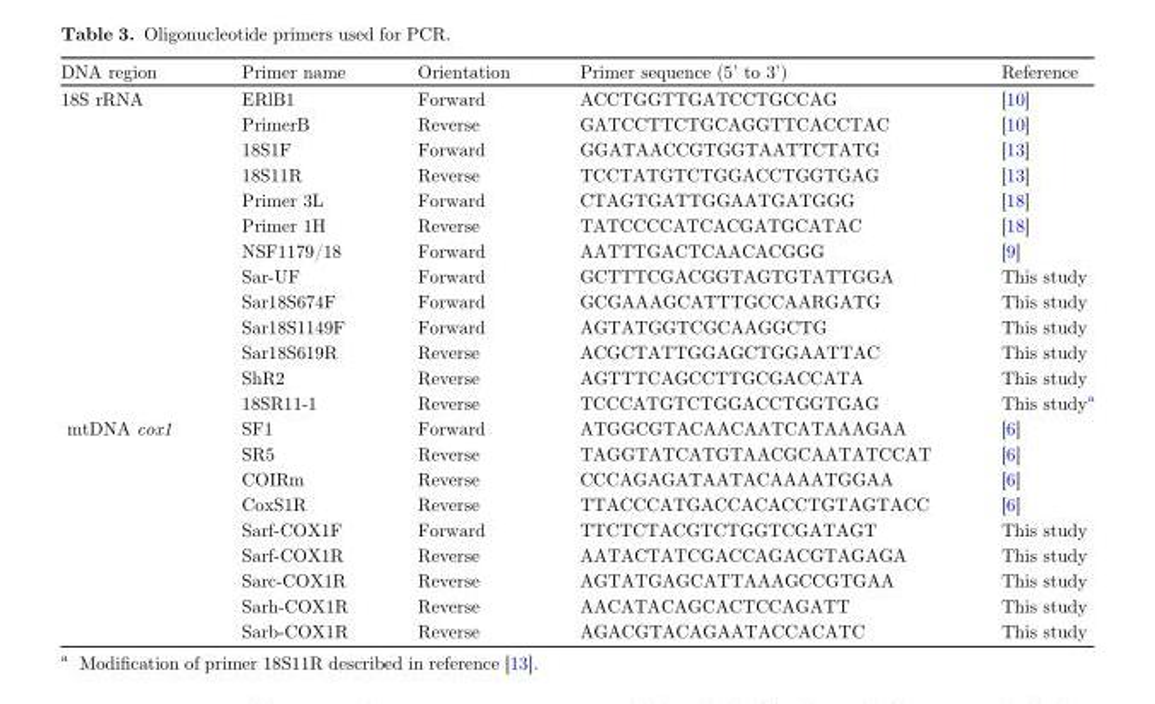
<table><thead><tr><td>DNA region</td><td>Primer name</td><td>Orientation</td><td>Primer sequence (5’ to 3’)</td><td>Reference</td></tr></thead><tbody><tr><td rowspan="13">18S rRNA</td><td>ERlB1</td><td>Forward</td><td>ACCTGGTTGATCCTGCCAG</td><td>[10]</td></tr><tr><td>PrimerB</td><td>Reverse</td><td>GATCCTTCTGCAGGTTCACCTAC</td><td>[10]</td></tr><tr><td>18S1F</td><td>Forward</td><td>GGATAACCGTGGTAATTCTATG</td><td>[13]</td></tr><tr><td>18S11R</td><td>Reverse</td><td>TCCTATGTCTGGACCTGGTGAG</td><td>[13]</td></tr><tr><td>Primer 3L</td><td>Forward</td><td>CTAGTGATTGGAATGATGGG</td><td>[18]</td></tr><tr><td>Primer 1H</td><td>Reverse</td><td>TATCCCCATCACGATGCATAC</td><td>[18]</td></tr><tr><td>NSF1179/18</td><td>Forward</td><td>AATTTGACTCAACACGGG</td><td>[9]</td></tr><tr><td>Sar-UF</td><td>Forward</td><td>GCTTTCGACGGTAGTGTATTGGA</td><td>This study</td></tr><tr><td>Sar18S674F</td><td>Forward</td><td>GCGAAAGCATTTGCCAARGATG</td><td>This study</td></tr><tr><td>Sar18S1149F</td><td>Forward</td><td>AGTATGGTCGCAAGGCTG</td><td>This study</td></tr><tr><td>Sar18S619R</td><td>Reverse</td><td>ACGCTATTGGAGCTGGAATTAC</td><td>This study</td></tr><tr><td>ShR2</td><td>Reverse</td><td>AGTTTCAGCCTTGCGACCATA</td><td>This study</td></tr><tr><td>18SR11-1</td><td>Reverse</td><td>TCCCATGTCTGGACCTGGTGAG</td><td>This study<sup>a</sup></td></tr><tr><td rowspan="9">mtDNA cox1</td><td>SF1</td><td>Forward</td><td>ATGGCGTACAACAATCATAAAGAA</td><td>[6]</td></tr><tr><td>SR5</td><td>Reverse</td><td>TAGGTATCATGTAACGCAATATCCAT</td><td>[6]</td></tr><tr><td>COIRm</td><td>Reverse</td><td>CCCAGAGATAATACAAAATGGAA</td><td>[6]</td></tr><tr><td>CoxS1R</td><td>Reverse</td><td>TTACCCATGACCACACCTGTAGTACC</td><td>[6]</td></tr><tr><td>Sarf-COX1F</td><td>Forward</td><td>TTCTCTACGTCTGGTCGATAGT</td><td>This study</td></tr><tr><td>Sarf-COX1R</td><td>Reverse</td><td>AATACTATCGACCAGACGTAGAGA</td><td>This study</td></tr><tr><td>Sarc-COX1R</td><td>Reverse</td><td>AGTATGAGCATTAAAGCCGTGAA</td><td>This study</td></tr><tr><td>Sarh-COX1R</td><td>Reverse</td><td>AACATACAGCACTCCAGATT</td><td>This study</td></tr><tr><td>Sarb-COX1R</td><td>Reverse</td><td>AGACGTACAGAATACCACATC</td><td>This study</td></tr></tbody></table>